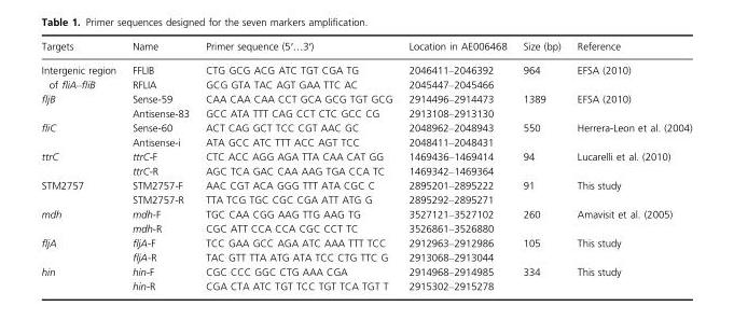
<table><thead><tr><td>Targets</td><td>Name</td><td>Primer sequence (5′…3′)</td><td>Location in AE006468</td><td>Size (bp)</td><td>Reference</td></tr></thead><tbody><tr><td rowspan="2">Intergenic region of fliA–fliB</td><td>FFLIB</td><td>CTG GCG ACG ATC TGT CGA TG</td><td>2046411–2046392</td><td rowspan="2">964</td><td rowspan="2">EFSA (2010)</td></tr><tr><td>RFLIA</td><td>GCG GTA TAC AGT GAA TTC AC</td><td>2045447–2045466</td></tr><tr><td rowspan="2">fljB</td><td>Sense-59</td><td>CAA CAA CAA CCT GCA GCG TGT GCG</td><td>2914496–2914473</td><td rowspan="2">1389</td><td rowspan="2">EFSA (2010)</td></tr><tr><td>Antisense-83</td><td>GCC ATA TTT CAG CCT CTC GCC CG</td><td>2913108–2913130</td></tr><tr><td rowspan="2">fliC</td><td>Sense-60</td><td>ACT CAG GCT TCC CGT AAC GC</td><td>2048962–2048943</td><td rowspan="2">550</td><td rowspan="2">Herrera-Leon et al. (2004)</td></tr><tr><td>Antisense-i</td><td>ATA GCC ATC TTT ACC AGT TCC</td><td>2048411–2048431</td></tr><tr><td rowspan="2">ttrC</td><td>ttrC-F</td><td>CTC ACC AGG AGA TTA CAA CAT GG</td><td>1469436–1469414</td><td rowspan="2">94</td><td rowspan="2">Lucarelli et al. (2010)</td></tr><tr><td>ttrC-R</td><td>AGC TCA GAC CAA AAG TGA CCA TC</td><td>1469342–1469364</td></tr><tr><td rowspan="2">STM2757</td><td>STM2757-F</td><td>AAC CGT ACA GGG TTT ATA CGC C</td><td>2895201–2895222</td><td rowspan="2">91</td><td rowspan="2">This study</td></tr><tr><td>STM2757-R</td><td>TTA TCG TGC CGC CGA ATT ATG G</td><td>2895292–2895271</td></tr><tr><td rowspan="2">mdh</td><td>mdh-F</td><td>TGC CAA CGG AAG TTG AAG TG</td><td>3527121–3527102</td><td rowspan="2">260</td><td rowspan="2">Amavisit et al. (2005)</td></tr><tr><td>mdh-R</td><td>CGC ATT CCA CCA CGC CCT TC</td><td>3526861–3526880</td></tr><tr><td rowspan="2">fljA</td><td>fljA-F</td><td>TCC GAA GCC AGA ATC AAA TTT TCC</td><td>2912963–2912986</td><td rowspan="2">105</td><td rowspan="2">This study</td></tr><tr><td>fljA-R</td><td>TAC GTT TTA ATG ATA TCC CTG TTC G</td><td>2913068–2913044</td></tr><tr><td rowspan="2">hin</td><td>hin-F</td><td>CGC CCC GGC CTG AAA CGA</td><td>2914968–2914985</td><td rowspan="2">334</td><td rowspan="2">This study</td></tr><tr><td>hin-R</td><td>CGA CTA ATC TGT TCC TGT TCA TGT T</td><td>2915302–2915278</td></tr></tbody></table>